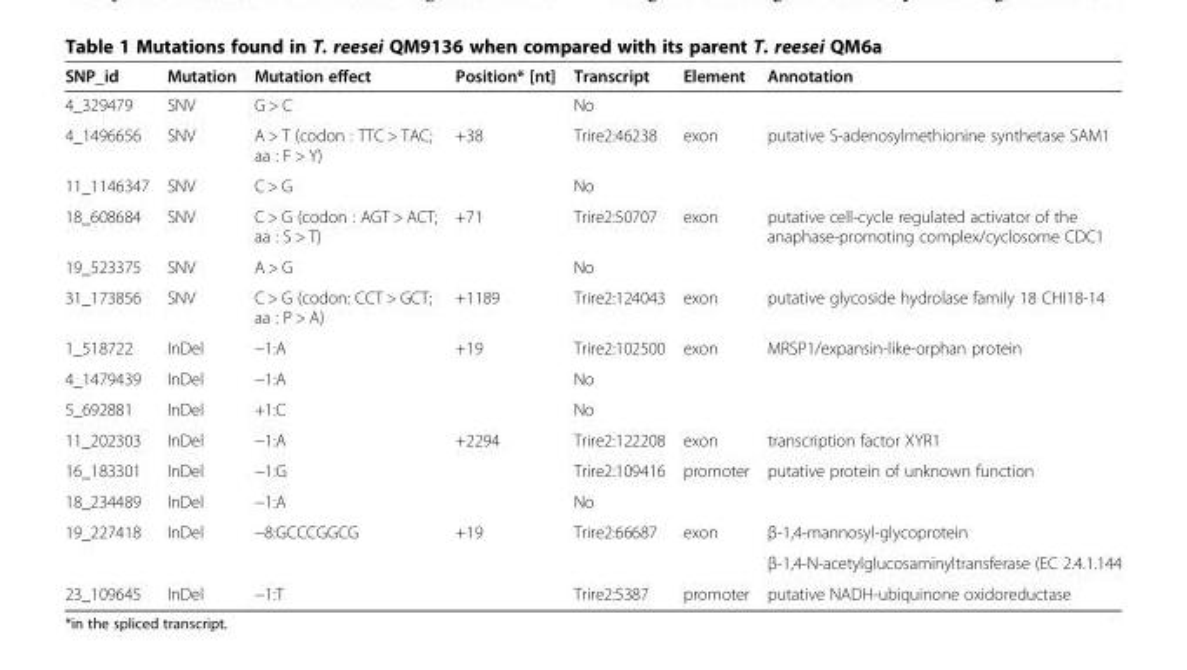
<table><thead><tr><td>SNP_id</td><td>Mutation</td><td>Mutation effect</td><td>Position* [nt]</td><td>Transcript</td><td>Element</td><td>Annotation</td></tr></thead><tbody><tr><td>4_329479</td><td>SNV</td><td>G &gt; C</td><td></td><td>No</td><td></td><td></td></tr><tr><td>4_1496656</td><td>SNV</td><td>A &gt; T (codon : TTC &gt; TAC; aa : F &gt; Y)</td><td>+38</td><td>Trire2:46238</td><td>exon</td><td>putative S-adenosylmethionine synthetase SAM1</td></tr><tr><td>11_1146347</td><td>SNV</td><td>C &gt; G</td><td></td><td>No</td><td></td><td></td></tr><tr><td>18_608684</td><td>SNV</td><td>C &gt; G (codon : AGT &gt; ACT; aa : S &gt; T)</td><td>+71</td><td>Trire2:50707</td><td>exon</td><td>putative cell-cycle regulated activator of the anaphase-promoting complex/cyclosome CDC1</td></tr><tr><td>19_523375</td><td>SNV</td><td>A &gt; G</td><td></td><td>No</td><td></td><td></td></tr><tr><td>31_173856</td><td>SNV</td><td>C &gt; G (codon: CCT &gt; GCT; aa : P &gt; A)</td><td>+1189</td><td>Trire2:124043</td><td>exon</td><td>putative glycoside hydrolase family 18 CHI18-14</td></tr><tr><td>1_518722</td><td>InDel</td><td>−1:A</td><td>+19</td><td>Trire2:102500</td><td>exon</td><td>MRSP1/expansin-like-orphan protein</td></tr><tr><td>4_1479439</td><td>InDel</td><td>−1:A</td><td></td><td>No</td><td></td><td></td></tr><tr><td>5_692881</td><td>InDel</td><td>+1:C</td><td></td><td>No</td><td></td><td></td></tr><tr><td>11_202303</td><td>InDel</td><td>−1:A</td><td>+2294</td><td>Trire2:122208</td><td>exon</td><td>transcription factor XYR1</td></tr><tr><td>16_183301</td><td>InDel</td><td>−1:G</td><td></td><td>Trire2:109416</td><td>promoter</td><td>putative protein of unknown function</td></tr><tr><td>18_234489</td><td>InDel</td><td>−1:A</td><td></td><td>No</td><td></td><td></td></tr><tr><td rowspan="2">19_227418</td><td rowspan="2">InDel</td><td rowspan="2">−8:GCCCGGCG</td><td rowspan="2">+19</td><td rowspan="2">Trire2:66687</td><td rowspan="2">exon</td><td>β-1,4-mannosyl-glycoprotein</td></tr><tr><td>β-1,4-N-acetylglucosaminyltransferase (EC 2.4.1.144</td></tr><tr><td>23_109645</td><td>InDel</td><td>−1:T</td><td></td><td>Trire2:5387</td><td>promoter</td><td>putative NADH-ubiquinone oxidoreductase</td></tr></tbody></table>